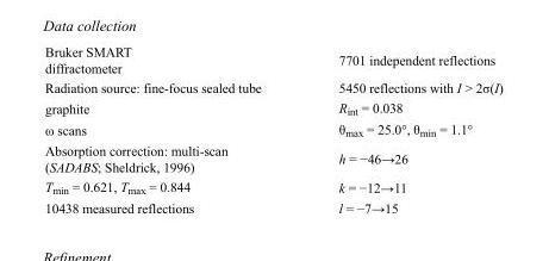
<table><tbody><tr><td>Bruker SMART diffractometer</td><td>7701 independent reflections</td></tr><tr><td>Radiation source: fine-focus sealed tube</td><td>5450 reflections with I &gt; 2σ(I)</td></tr><tr><td>graphite</td><td>R<sub>int</sub> = 0.038</td></tr><tr><td>ω scans</td><td>θ<sub>max</sub> = 25.0°, θ<sub>min</sub> = 1.1°</td></tr><tr><td>Absorption correction: multi-scan (SADABS; Sheldrick, 1996)</td><td>h = −46→26</td></tr><tr><td>T<sub>min</sub> = 0.621, T<sub>max</sub> = 0.844</td><td>k = −12→11</td></tr><tr><td>10438 measured reflections</td><td>l = −7→15</td></tr></tbody></table>